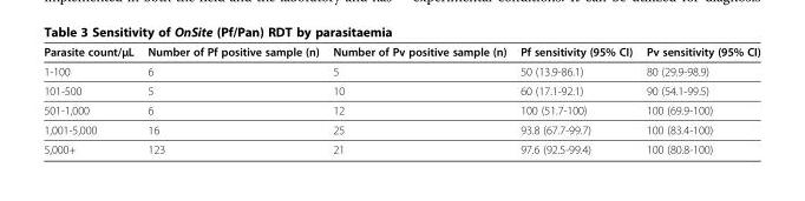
<table><thead><tr><td>Parasite count/μL</td><td>Number of Pf positive sample (n)</td><td>Number of Pv positive sample (n)</td><td>Pf sensitivity (95% CI)</td><td>Pv sensitivity (95% CI)</td></tr></thead><tbody><tr><td>1-100</td><td>6</td><td>5</td><td>50 (13.9-86.1)</td><td>80 (29.9-98.9)</td></tr><tr><td>101-500</td><td>5</td><td>10</td><td>60 (17.1-92.1)</td><td>90 (54.1-99.5)</td></tr><tr><td>501-1,000</td><td>6</td><td>12</td><td>100 (51.7-100)</td><td>100 (69.9-100)</td></tr><tr><td>1,001-5,000</td><td>16</td><td>25</td><td>93.8 (67.7-99.7)</td><td>100 (83.4-100)</td></tr><tr><td>5,000+</td><td>123</td><td>21</td><td>97.6 (92.5-99.4)</td><td>100 (80.8-100)</td></tr></tbody></table>